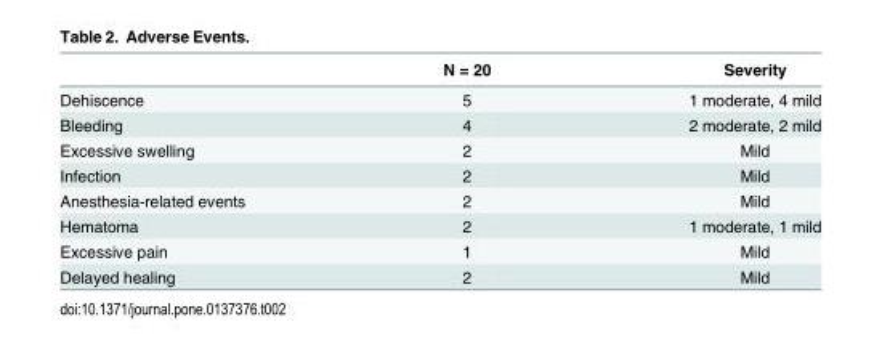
<table><thead><tr><td></td><td>N = 20</td><td>Severity</td></tr></thead><tbody><tr><td>Dehiscence</td><td>5</td><td>1 moderate, 4 mild</td></tr><tr><td>Bleeding</td><td>4</td><td>2 moderate, 2 mild</td></tr><tr><td>Excessive swelling</td><td>2</td><td>Mild</td></tr><tr><td>Infection</td><td>2</td><td>Mild</td></tr><tr><td>Anesthesia-related events</td><td>2</td><td>Mild</td></tr><tr><td>Hematoma</td><td>2</td><td>1 moderate, 1 mild</td></tr><tr><td>Excessive pain</td><td>1</td><td>Mild</td></tr><tr><td>Delayed healing</td><td>2</td><td>Mild</td></tr></tbody></table>